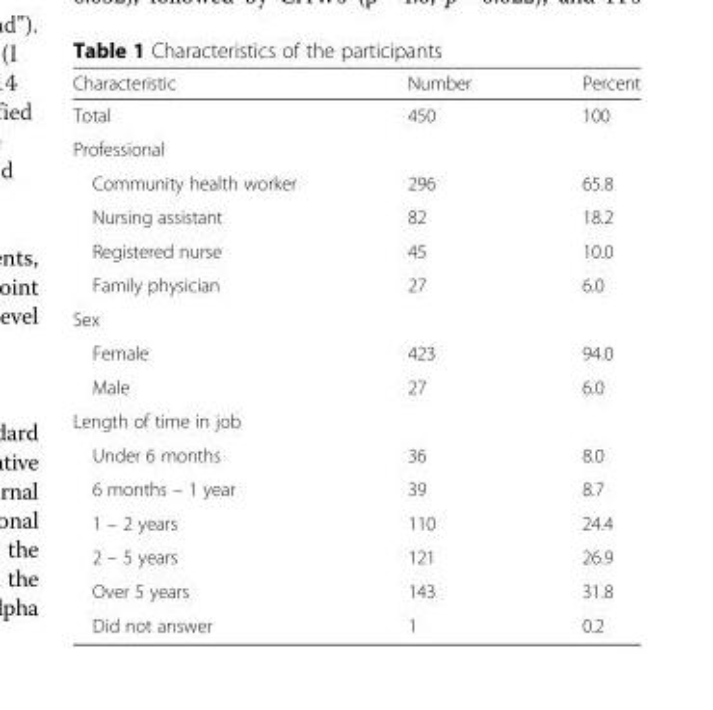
<table><thead><tr><td>Characteristic</td><td>Number</td><td>Percent</td></tr></thead><tbody><tr><td>Total</td><td>450</td><td>100</td></tr><tr><td colspan="3">Professional</td></tr><tr><td>Community health worker</td><td>296</td><td>65.8</td></tr><tr><td>Nursing assistant</td><td>82</td><td>18.2</td></tr><tr><td>Registered nurse</td><td>45</td><td>10.0</td></tr><tr><td>Family physician</td><td>27</td><td>6.0</td></tr><tr><td colspan="3">Sex</td></tr><tr><td>Female</td><td>423</td><td>94.0</td></tr><tr><td>Male</td><td>27</td><td>6.0</td></tr><tr><td colspan="3">Length of time in job</td></tr><tr><td>Under 6 months</td><td>36</td><td>8.0</td></tr><tr><td>6 months – 1 year</td><td>39</td><td>8.7</td></tr><tr><td>1 – 2 years</td><td>110</td><td>24.4</td></tr><tr><td>2 – 5 years</td><td>121</td><td>26.9</td></tr><tr><td>Over 5 years</td><td>143</td><td>31.8</td></tr><tr><td>Did not answer</td><td>1</td><td>0.2</td></tr></tbody></table>